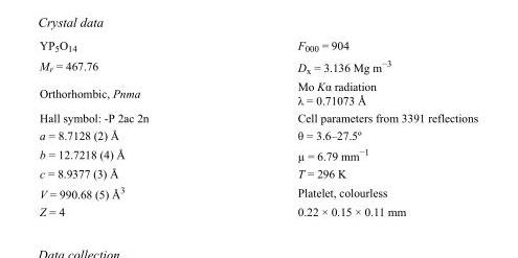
<table><tbody><tr><td>YP<sub>5</sub>O<sub>14</sub></td><td>F000 = 904</td></tr><tr><td>M<sub>r</sub> = 467.76</td><td>D<sub>x</sub> = 3.136 Mg m<sup>−3</sup></td></tr><tr><td>Orthorhombic, Pnma</td><td>Mo Kα radiation λ = 0.71073 Å</td></tr><tr><td>Hall symbol: -P 2ac 2n</td><td>Cell parameters from 3391 reflections</td></tr><tr><td>a = 8.7128 (2) Å</td><td>θ = 3.6–27.5º</td></tr><tr><td>b = 12.7218 (4) Å</td><td>µ = 6.79 mm<sup>−1</sup></td></tr><tr><td>c = 8.9377 (3) Å</td><td>T = 296 K</td></tr><tr><td>V = 990.68 (5) Å<sup>3</sup></td><td>Platelet, colourless</td></tr><tr><td>Z = 4</td><td>0.22 × 0.15 × 0.11 mm</td></tr></tbody></table>